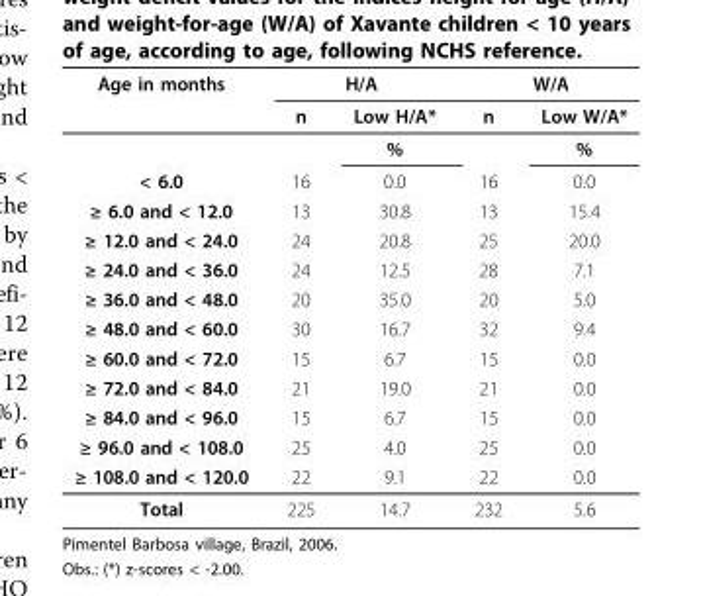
<table><thead><tr><td rowspan="2">Age in months</td><td colspan="2">H/A</td><td colspan="2">W/A</td></tr><tr><td>n</td><td>Low H/A*</td><td>n</td><td>Low W/A*</td></tr></thead><tbody><tr><td></td><td></td><td>%</td><td></td><td>%</td></tr><tr><td>&lt; 6.0</td><td>16</td><td>0.0</td><td>16</td><td>0.0</td></tr><tr><td>≥ 6.0 and &lt; 12.0</td><td>13</td><td>30.8</td><td>13</td><td>15.4</td></tr><tr><td>≥ 12.0 and &lt; 24.0</td><td>24</td><td>20.8</td><td>25</td><td>20.0</td></tr><tr><td>≥ 24.0 and &lt; 36.0</td><td>24</td><td>12.5</td><td>28</td><td>7.1</td></tr><tr><td>≥ 36.0 and &lt; 48.0</td><td>20</td><td>35.0</td><td>20</td><td>5.0</td></tr><tr><td>≥ 48.0 and &lt; 60.0</td><td>30</td><td>16.7</td><td>32</td><td>9.4</td></tr><tr><td>≥ 60.0 and &lt; 72.0</td><td>15</td><td>6.7</td><td>15</td><td>0.0</td></tr><tr><td>≥ 72.0 and &lt; 84.0</td><td>21</td><td>19.0</td><td>21</td><td>0.0</td></tr><tr><td>≥ 84.0 and &lt; 96.0</td><td>15</td><td>6.7</td><td>15</td><td>0.0</td></tr><tr><td>≥ 96.0 and &lt; 108.0</td><td>25</td><td>4.0</td><td>25</td><td>0.0</td></tr><tr><td>≥ 108.0 and &lt; 120.0</td><td>22</td><td>9.1</td><td>22</td><td>0.0</td></tr><tr><td>Total</td><td>225</td><td>14.7</td><td>232</td><td>5.6</td></tr></tbody></table>